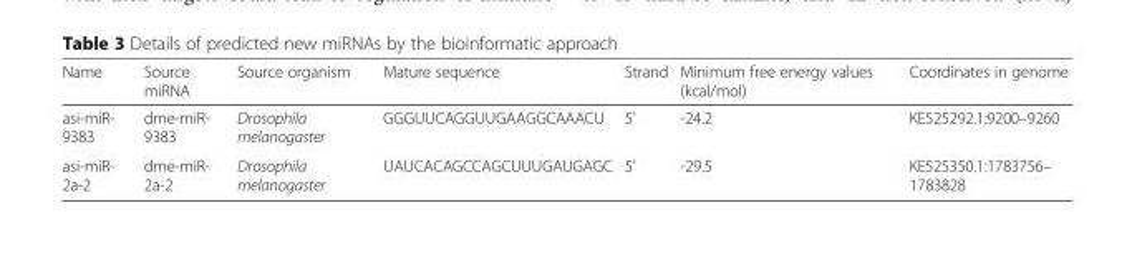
<table><thead><tr><td>Name</td><td>Source miRNA</td><td>Source organism</td><td>Mature sequence</td><td>Strand</td><td>Minimum free energy values (kcal/mol)</td><td>Coordinates in genome</td></tr></thead><tbody><tr><td>asi-miR- 9383</td><td>dme-miR- 9383</td><td>Drosophila melanogaster</td><td>GGGUUCAGGUUGAAGGCAAACU</td><td>5&#x27;</td><td>-24.2</td><td>KE525292.1:9200–9260</td></tr><tr><td>asi-miR- 2a-2</td><td>dme-miR- 2a-2</td><td>Drosophila melanogaster</td><td>UAUCACAGCCAGCUUUGAUGAGC</td><td>5&#x27;</td><td>-29.5</td><td>KE525350.1:1783756– 1783828</td></tr></tbody></table>